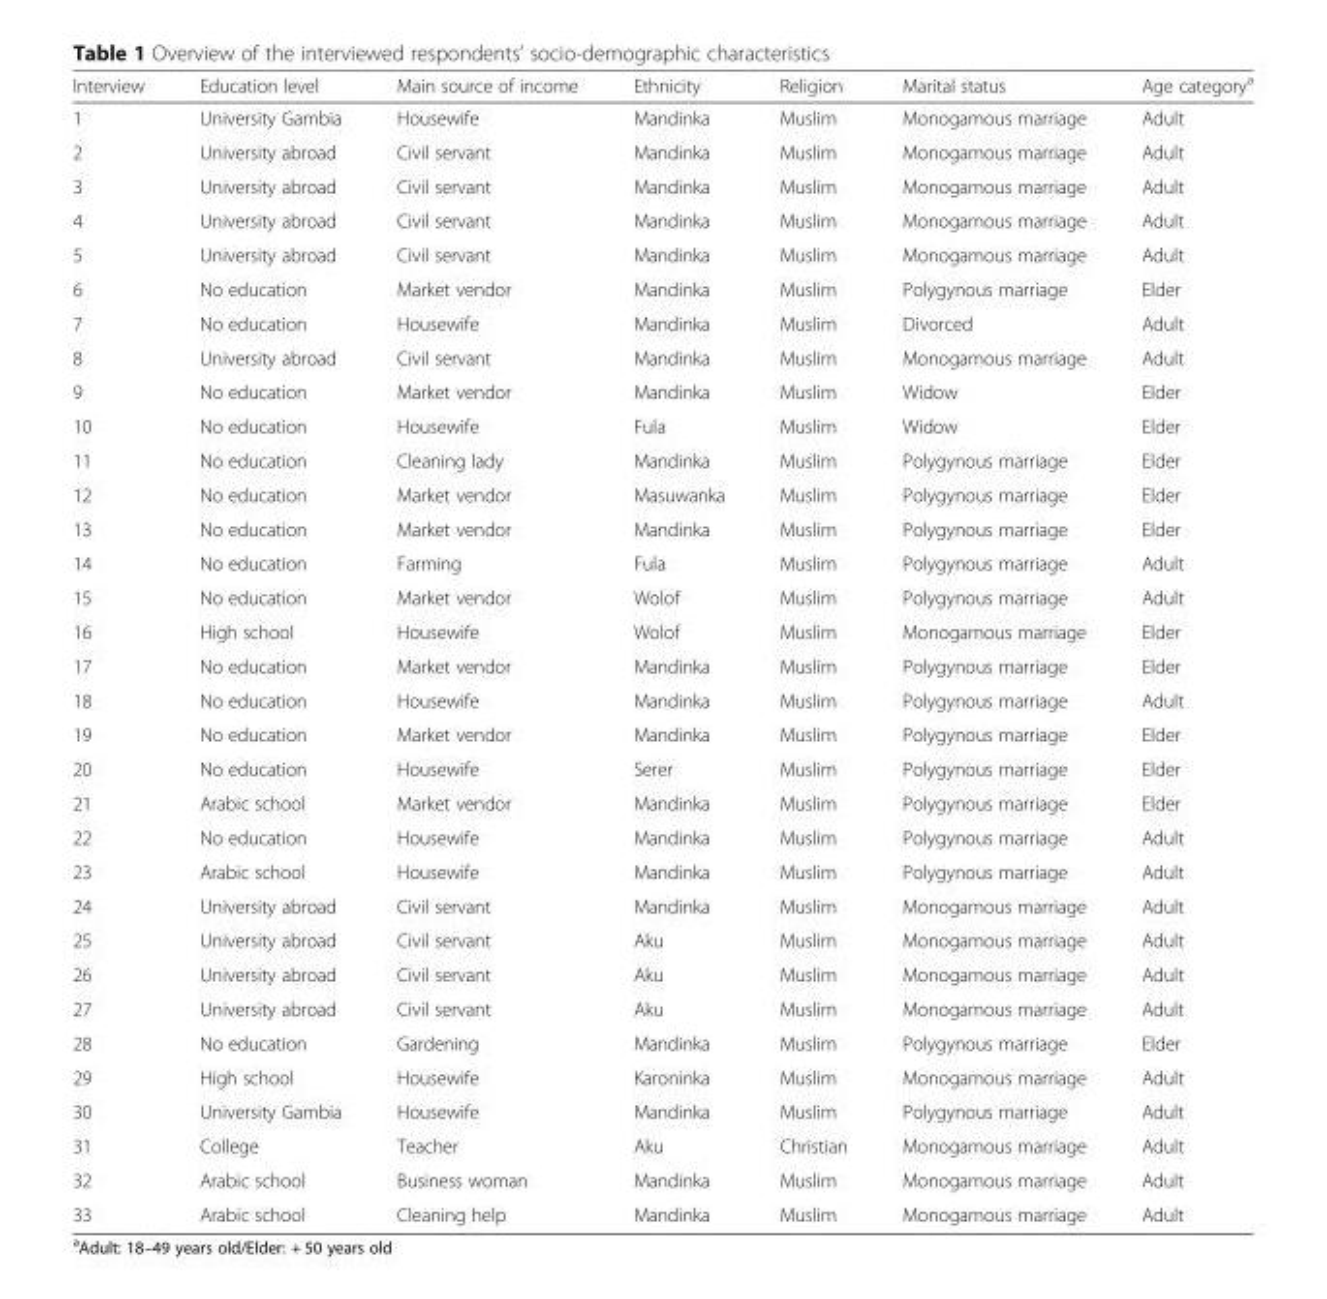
<table><thead><tr><td>Interview</td><td>Education level</td><td>Main source of income</td><td>Ethnicity</td><td>Religion</td><td>Marital status</td><td>Age category<sup>a</sup></td></tr></thead><tbody><tr><td>1</td><td>University Gambia</td><td>Housewife</td><td>Mandinka</td><td>Muslim</td><td>Monogamous marriage</td><td>Adult</td></tr><tr><td>2</td><td>University abroad</td><td>Civil servant</td><td>Mandinka</td><td>Muslim</td><td>Monogamous marriage</td><td>Adult</td></tr><tr><td>3</td><td>University abroad</td><td>Civil servant</td><td>Mandinka</td><td>Muslim</td><td>Monogamous marriage</td><td>Adult</td></tr><tr><td>4</td><td>University abroad</td><td>Civil servant</td><td>Mandinka</td><td>Muslim</td><td>Monogamous marriage</td><td>Adult</td></tr><tr><td>5</td><td>University abroad</td><td>Civil servant</td><td>Mandinka</td><td>Muslim</td><td>Monogamous marriage</td><td>Adult</td></tr><tr><td>6</td><td>No education</td><td>Market vendor</td><td>Mandinka</td><td>Muslim</td><td>Polygynous marriage</td><td>Elder</td></tr><tr><td>7</td><td>No education</td><td>Housewife</td><td>Mandinka</td><td>Muslim</td><td>Divorced</td><td>Adult</td></tr><tr><td>8</td><td>University abroad</td><td>Civil servant</td><td>Mandinka</td><td>Muslim</td><td>Monogamous marriage</td><td>Adult</td></tr><tr><td>9</td><td>No education</td><td>Market vendor</td><td>Mandinka</td><td>Muslim</td><td>Widow</td><td>Elder</td></tr><tr><td>10</td><td>No education</td><td>Housewife</td><td>Fula</td><td>Muslim</td><td>Widow</td><td>Elder</td></tr><tr><td>11</td><td>No education</td><td>Cleaning lady</td><td>Mandinka</td><td>Muslim</td><td>Polygynous marriage</td><td>Elder</td></tr><tr><td>12</td><td>No education</td><td>Market vendor</td><td>Masuwanka</td><td>Muslim</td><td>Polygynous marriage</td><td>Elder</td></tr><tr><td>13</td><td>No education</td><td>Market vendor</td><td>Mandinka</td><td>Muslim</td><td>Polygynous marriage</td><td>Elder</td></tr><tr><td>14</td><td>No education</td><td>Farming</td><td>Fula</td><td>Muslim</td><td>Polygynous marriage</td><td>Adult</td></tr><tr><td>15</td><td>No education</td><td>Market vendor</td><td>Wolof</td><td>Muslim</td><td>Polygynous marriage</td><td>Adult</td></tr><tr><td>16</td><td>High school</td><td>Housewife</td><td>Wolof</td><td>Muslim</td><td>Monogamous marriage</td><td>Elder</td></tr><tr><td>17</td><td>No education</td><td>Market vendor</td><td>Mandinka</td><td>Muslim</td><td>Polygynous marriage</td><td>Elder</td></tr><tr><td>18</td><td>No education</td><td>Housewife</td><td>Mandinka</td><td>Muslim</td><td>Polygynous marriage</td><td>Adult</td></tr><tr><td>19</td><td>No education</td><td>Market vendor</td><td>Mandinka</td><td>Muslim</td><td>Polygynous marriage</td><td>Elder</td></tr><tr><td>20</td><td>No education</td><td>Housewife</td><td>Serer</td><td>Muslim</td><td>Polygynous marriage</td><td>Elder</td></tr><tr><td>21</td><td>Arabic school</td><td>Market vendor</td><td>Mandinka</td><td>Muslim</td><td>Polygynous marriage</td><td>Elder</td></tr><tr><td>22</td><td>No education</td><td>Housewife</td><td>Mandinka</td><td>Muslim</td><td>Polygynous marriage</td><td>Adult</td></tr><tr><td>23</td><td>Arabic school</td><td>Housewife</td><td>Mandinka</td><td>Muslim</td><td>Polygynous marriage</td><td>Adult</td></tr><tr><td>24</td><td>University abroad</td><td>Civil servant</td><td>Mandinka</td><td>Muslim</td><td>Monogamous marriage</td><td>Adult</td></tr><tr><td>25</td><td>University abroad</td><td>Civil servant</td><td>Aku</td><td>Muslim</td><td>Monogamous marriage</td><td>Adult</td></tr><tr><td>26</td><td>University abroad</td><td>Civil servant</td><td>Aku</td><td>Muslim</td><td>Monogamous marriage</td><td>Adult</td></tr><tr><td>27</td><td>University abroad</td><td>Civil servant</td><td>Aku</td><td>Muslim</td><td>Monogamous marriage</td><td>Adult</td></tr><tr><td>28</td><td>No education</td><td>Gardening</td><td>Mandinka</td><td>Muslim</td><td>Polygynous marriage</td><td>Elder</td></tr><tr><td>29</td><td>High school</td><td>Housewife</td><td>Karoninka</td><td>Muslim</td><td>Monogamous marriage</td><td>Adult</td></tr><tr><td>30</td><td>University Gambia</td><td>Housewife</td><td>Mandinka</td><td>Muslim</td><td>Polygynous marriage</td><td>Adult</td></tr><tr><td>31</td><td>College</td><td>Teacher</td><td>Aku</td><td>Christian</td><td>Monogamous marriage</td><td>Adult</td></tr><tr><td>32</td><td>Arabic school</td><td>Business woman</td><td>Mandinka</td><td>Muslim</td><td>Monogamous marriage</td><td>Adult</td></tr><tr><td>33</td><td>Arabic school</td><td>Cleaning help</td><td>Mandinka</td><td>Muslim</td><td>Monogamous marriage</td><td>Adult</td></tr></tbody></table>